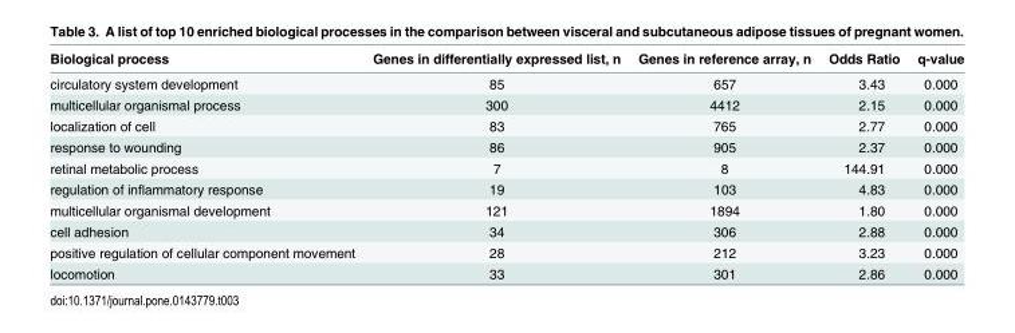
<table><thead><tr><td>Biological process</td><td>Genes in differentially expressed list, n</td><td>Genes in reference array, n</td><td>Odds Ratio</td><td>q-value</td></tr></thead><tbody><tr><td>circulatory system development</td><td>85</td><td>657</td><td>3.43</td><td>0.000</td></tr><tr><td>multicellular organismal process</td><td>300</td><td>4412</td><td>2.15</td><td>0.000</td></tr><tr><td>localization of cell</td><td>83</td><td>765</td><td>2.77</td><td>0.000</td></tr><tr><td>response to wounding</td><td>86</td><td>905</td><td>2.37</td><td>0.000</td></tr><tr><td>retinal metabolic process</td><td>7</td><td>8</td><td>144.91</td><td>0.000</td></tr><tr><td>regulation of inflammatory response</td><td>19</td><td>103</td><td>4.83</td><td>0.000</td></tr><tr><td>multicellular organismal development</td><td>121</td><td>1894</td><td>1.80</td><td>0.000</td></tr><tr><td>cell adhesion</td><td>34</td><td>306</td><td>2.88</td><td>0.000</td></tr><tr><td>positive regulation of cellular component movement</td><td>28</td><td>212</td><td>3.23</td><td>0.000</td></tr><tr><td>locomotion</td><td>33</td><td>301</td><td>2.86</td><td>0.000</td></tr></tbody></table>